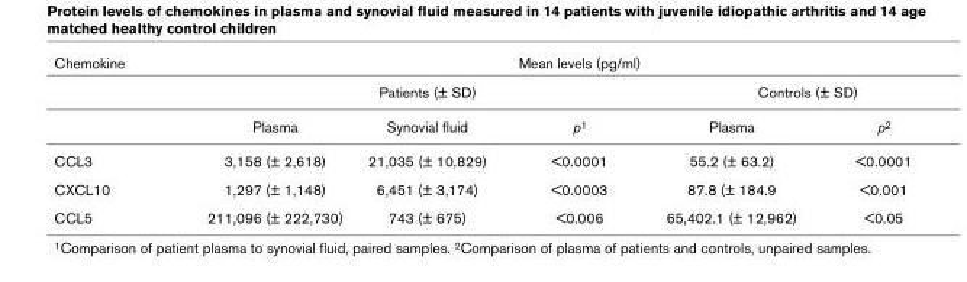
<table><thead><tr><td rowspan="3">Chemokine</td><td colspan="5">Mean levels (pg/ml)</td></tr><tr><td colspan="3">Patients (± SD)</td><td colspan="2">Controls (± SD)</td></tr><tr><td>Plasma</td><td>Synovial fluid</td><td>p1</td><td>Plasma</td><td>p2</td></tr></thead><tbody><tr><td>CCL3</td><td>3,158 (± 2,618)</td><td>21,035 (± 10,829)</td><td>&lt;0.0001</td><td>55.2 (± 63.2)</td><td>&lt;0.0001</td></tr><tr><td>CXCL10</td><td>1,297 (± 1,148)</td><td>6,451 (± 3,174)</td><td>&lt;0.0003</td><td>87.8 (± 184.9</td><td>&lt;0.001</td></tr><tr><td>CCL5</td><td>211,096 (± 222,730)</td><td>743 (± 675)</td><td>&lt;0.006</td><td>65,402.1 (± 12,962)</td><td>&lt;0.05</td></tr></tbody></table>